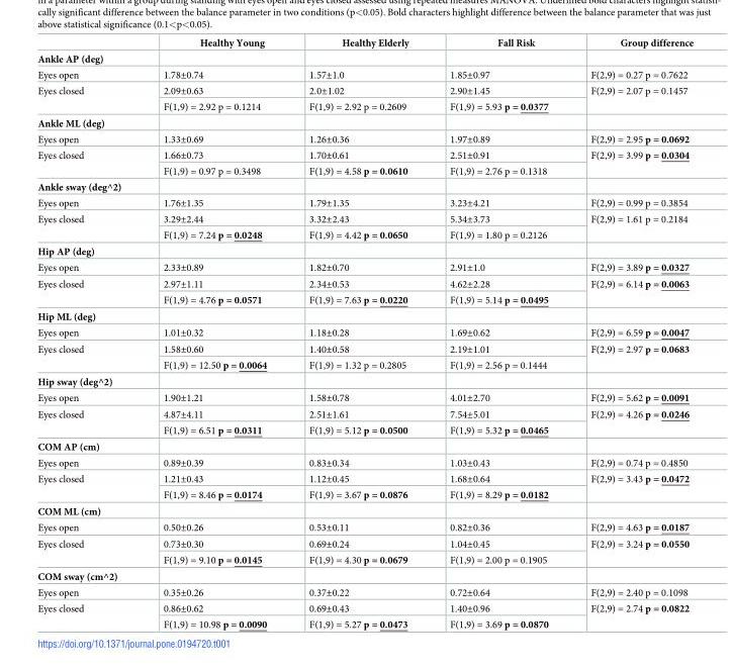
<table><thead><tr><td></td><td>Healthy Young</td><td>Healthy Elderly</td><td>Fall Risk</td><td>Group difference</td></tr></thead><tbody><tr><td colspan="5">Ankle AP (deg)</td></tr><tr><td>Eyes open</td><td>1.78±0.74</td><td>1.57±1.0</td><td>1.85±0.97</td><td>F(2,9) = 0.27 p = 0.7622</td></tr><tr><td rowspan="2">Eyes closed</td><td>2.09±0.63</td><td>2.0±1.02</td><td>2.90±1.45</td><td rowspan="2">F(2,9) = 2.07 p = 0.1457</td></tr><tr><td>F(1,9) = 2.92 p = 0.1214</td><td>F(1,9) = 2.92 p = 0.2609</td><td>F(1,9) = 5.93 p = 0.0377</td></tr><tr><td colspan="5">Ankle ML (deg)</td></tr><tr><td>Eyes open</td><td>1.33±0.69</td><td>1.26±0.36</td><td>1.97±0.89</td><td>F(2,9) = 2.95 p = 0.0692</td></tr><tr><td rowspan="2">Eyes closed</td><td>1.66±0.73</td><td>1.70±0.61</td><td>2.51±0.91</td><td rowspan="2">F(2,9) = 3.99 p = 0.0304</td></tr><tr><td>F(1,9) = 0.97 p = 0.3498</td><td>F(1,9) = 4.58 p = 0.0610</td><td>F(1,9) = 2.76 p = 0.1318</td></tr><tr><td colspan="5">Ankle sway (deg^2)</td></tr><tr><td>Eyes open</td><td>1.76±1.35</td><td>1.79±1.35</td><td>3.23±4.21</td><td>F(2,9) = 0.99 p = 0.3854</td></tr><tr><td rowspan="2">Eyes closed</td><td>3.29±2.44</td><td>3.32±2.43</td><td>5.34±3.73</td><td rowspan="2">F(2,9) = 1.61 p = 0.2184</td></tr><tr><td>F(1,9) = 7.24 p = 0.0248</td><td>F(1,9) = 4.42 p = 0.0650</td><td>F(1,9) = 1.80 p = 0.2126</td></tr><tr><td colspan="5">Hip AP (deg)</td></tr><tr><td>Eyes open</td><td>2.33±0.89</td><td>1.82±0.70</td><td>2.91±1.0</td><td>F(2,9) = 3.89 p = 0.0327</td></tr><tr><td rowspan="2">Eyes closed</td><td>2.97±1.11</td><td>2.34±0.53</td><td>4.62±2.28</td><td rowspan="2">F(2,9) = 6.14 p = 0.0063</td></tr><tr><td>F(1,9) = 4.76 p = 0.0571</td><td>F(1,9) = 7.63 p = 0.0220</td><td>F(1,9) = 5.14 p = 0.0495</td></tr><tr><td colspan="5">Hip ML (deg)</td></tr><tr><td>Eyes open</td><td>1.01±0.32</td><td>1.18±0.28</td><td>1.69±0.62</td><td>F(2,9) = 6.59 p = 0.0047</td></tr><tr><td rowspan="2">Eyes closed</td><td>1.58±0.60</td><td>1.40±0.58</td><td>2.19±1.01</td><td rowspan="2">F(2,9) = 2.97 p = 0.0683</td></tr><tr><td>F(1,9) = 12.50 p = 0.0064</td><td>F(1,9) = 1.32 p = 0.2805</td><td>F(1,9) = 2.56 p = 0.1444</td></tr><tr><td colspan="5">Hip sway (deg^2)</td></tr><tr><td>Eyes open</td><td>1.90±1.21</td><td>1.58±0.78</td><td>4.01±2.70</td><td>F(2,9) = 5.62 p = 0.0091</td></tr><tr><td rowspan="2">Eyes closed</td><td>4.87±4.11</td><td>2.51±1.61</td><td>7.54±5.01</td><td rowspan="2">F(2,9) = 4.26 p = 0.0246</td></tr><tr><td>F(1,9) = 6.51 p = 0.0311</td><td>F(1,9) = 5.12 p = 0.0500</td><td>F(1,9) = 5.32 p = 0.0465</td></tr><tr><td colspan="5">COM AP (cm)</td></tr><tr><td>Eyes open</td><td>0.89±0.39</td><td>0.83±0.34</td><td>1.03±0.43</td><td>F(2,9) = 0.74 p = 0.4850</td></tr><tr><td rowspan="2">Eyes closed</td><td>1.21±0.43</td><td>1.12±0.45</td><td>1.68±0.64</td><td rowspan="2">F(2,9) = 3.43 p = 0.0472</td></tr><tr><td>F(1,9) = 8.46 p = 0.0174</td><td>F(1,9) = 3.67 p = 0.0876</td><td>F(1,9) = 8.29 p = 0.0182</td></tr><tr><td colspan="5">COM ML (cm)</td></tr><tr><td>Eyes open</td><td>0.50±0.26</td><td>0.53±0.11</td><td>0.82±0.36</td><td>F(2,9) = 4.63 p = 0.0187</td></tr><tr><td rowspan="2">Eyes closed</td><td>0.73±0.30</td><td>0.69±0.24</td><td>1.04±0.45</td><td rowspan="2">F(2,9) = 3.24 p = 0.0550</td></tr><tr><td>F(1,9) = 9.10 p = 0.0145</td><td>F(1,9) = 4.30 p = 0.0679</td><td>F(1,9) = 2.00 p = 0.1905</td></tr><tr><td colspan="5">COM sway (cm^2)</td></tr><tr><td>Eyes open</td><td>0.35±0.26</td><td>0.37±0.22</td><td>0.72±0.64</td><td>F(2,9) = 2.40 p = 0.1098</td></tr><tr><td rowspan="2">Eyes closed</td><td>0.86±0.62</td><td>0.69±0.43</td><td>1.40±0.96</td><td rowspan="2">F(2,9) = 2.74 p = 0.0822</td></tr><tr><td>F(1,9) = 10.98 p = 0.0090</td><td>F(1,9) = 5.27 p = 0.0473</td><td>F(1,9) = 3.69 p = 0.0870</td></tr></tbody></table>